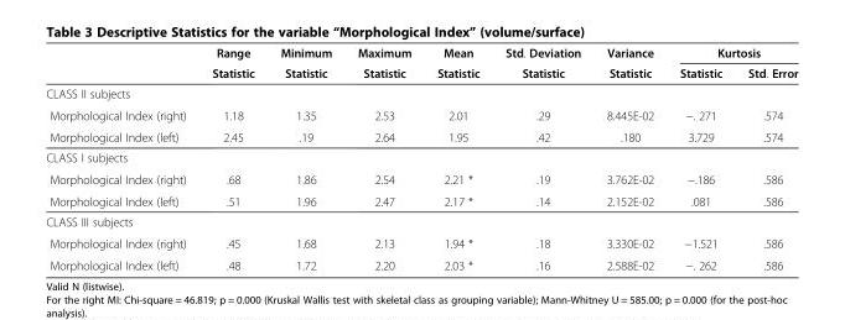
<table><thead><tr><td rowspan="2"></td><td rowspan="2">Range Statistic</td><td rowspan="2">Minimum Statistic</td><td rowspan="2">Maximum Statistic</td><td rowspan="2">Mean Statistic</td><td rowspan="2">Std. Deviation Statistic</td><td rowspan="2">Variance Statistic</td><td colspan="2">Kurtosis</td></tr><tr><td>Statistic</td><td>Std. Error</td></tr></thead><tbody><tr><td colspan="9">CLASS II subjects</td></tr><tr><td>Morphological Index (right)</td><td>1.18</td><td>1.35</td><td>2.53</td><td>2.01</td><td>.29</td><td>8.445E-02</td><td>−. 271</td><td>.574</td></tr><tr><td>Morphological Index (left)</td><td>2.45</td><td>.19</td><td>2.64</td><td>1.95</td><td>.42</td><td>.180</td><td>3.729</td><td>.574</td></tr><tr><td colspan="9">CLASS I subjects</td></tr><tr><td>Morphological Index (right)</td><td>.68</td><td>1.86</td><td>2.54</td><td>2.21 *</td><td>.19</td><td>3.762E-02</td><td>−.186</td><td>.586</td></tr><tr><td>Morphological Index (left)</td><td>.51</td><td>1.96</td><td>2.47</td><td>2.17 *</td><td>.14</td><td>2.152E-02</td><td>.081</td><td>.586</td></tr><tr><td colspan="9">CLASS III subjects</td></tr><tr><td>Morphological Index (right)</td><td>.45</td><td>1.68</td><td>2.13</td><td>1.94 *</td><td>.18</td><td>3.330E-02</td><td>−1.521</td><td>.586</td></tr><tr><td>Morphological Index (left)</td><td>.48</td><td>1.72</td><td>2.20</td><td>2.03 *</td><td>.16</td><td>2.588E-02</td><td>−. 262</td><td>.586</td></tr></tbody></table>